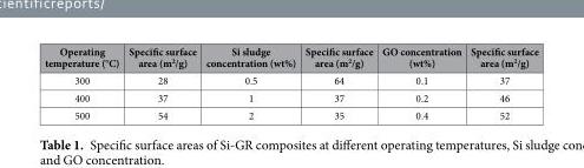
<table><thead><tr><td>Operating temperature (°C)</td><td>Specific surface area (m<sup>2</sup>/g)</td><td>Si sludge concentration (wt%)</td><td>Specific surface area (m<sup>2</sup>/g)</td><td>GO concentration (wt%)</td><td>Specific surface area (m<sup>2</sup>/g)</td></tr></thead><tbody><tr><td>300</td><td>28</td><td>0.5</td><td>64</td><td>0.1</td><td>37</td></tr><tr><td>400</td><td>37</td><td>1</td><td>37</td><td>0.2</td><td>46</td></tr><tr><td>500</td><td>54</td><td>2</td><td>35</td><td>0.4</td><td>52</td></tr></tbody></table>